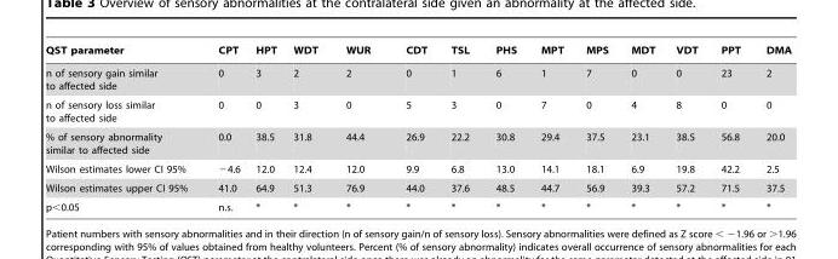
<table><thead><tr><td>QST parameter</td><td>CPT</td><td>HPT</td><td>WDT</td><td>WUR</td><td>CDT</td><td>TSL</td><td>PHS</td><td>MPT</td><td>MPS</td><td>MDT</td><td>VDT</td><td>PPT</td><td>DMA</td></tr></thead><tbody><tr><td>n of sensory gain similar to affected side</td><td>0</td><td>3</td><td>2</td><td>2</td><td>0</td><td>1</td><td>6</td><td>1</td><td>7</td><td>0</td><td>0</td><td>23</td><td>2</td></tr><tr><td>n of sensory loss similar to affected side</td><td>0</td><td>0</td><td>3</td><td>0</td><td>5</td><td>3</td><td>0</td><td>7</td><td>0</td><td>4</td><td>8</td><td>0</td><td>0</td></tr><tr><td>% of sensory abnormality similar to affected side</td><td>0.0</td><td>38.5</td><td>31.8</td><td>44.4</td><td>26.9</td><td>22.2</td><td>30.8</td><td>29.4</td><td>37.5</td><td>23.1</td><td>38.5</td><td>56.8</td><td>20.0</td></tr><tr><td>Wilson estimates lower CI 95%</td><td>−4.6</td><td>12.0</td><td>12.4</td><td>12.0</td><td>9.9</td><td>6.8</td><td>13.0</td><td>14.1</td><td>18.1</td><td>6.9</td><td>19.8</td><td>42.2</td><td>2.5</td></tr><tr><td>Wilson estimates upper CI 95%</td><td>41.0</td><td>64.9</td><td>51.3</td><td>76.9</td><td>44.0</td><td>37.6</td><td>48.5</td><td>44.7</td><td>56.9</td><td>39.3</td><td>57.2</td><td>71.5</td><td>37.5</td></tr><tr><td>p&lt;0.05</td><td>n.s.</td><td>*</td><td>*</td><td>*</td><td>*</td><td>*</td><td>*</td><td>*</td><td>*</td><td>*</td><td>*</td><td>*</td><td>*</td></tr></tbody></table>